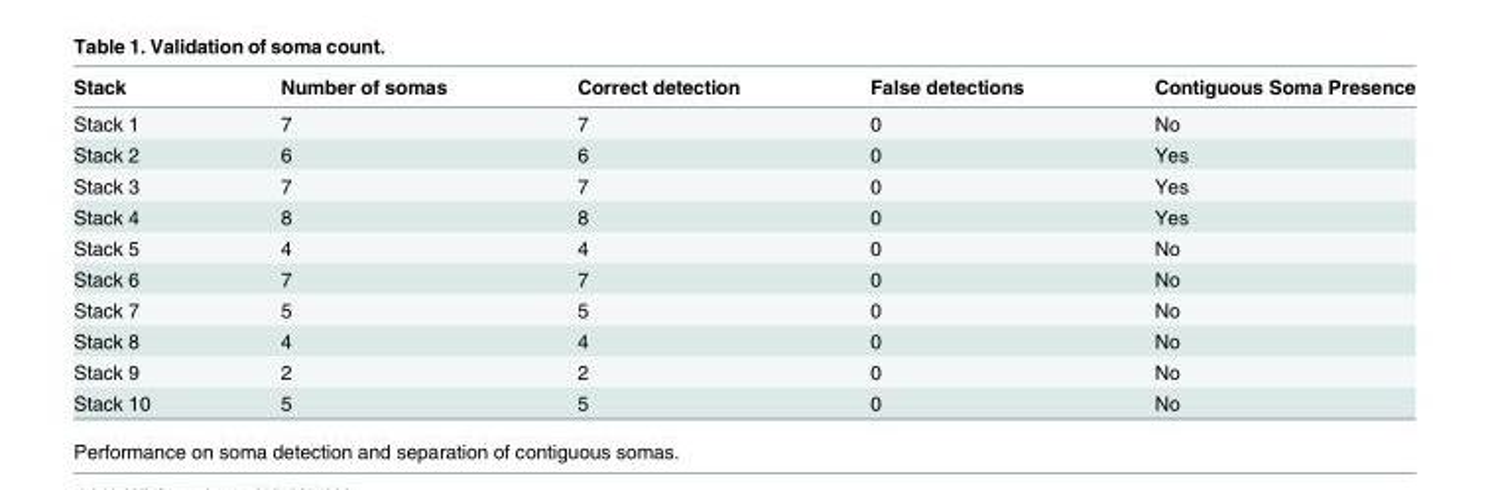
<table><thead><tr><td>Stack</td><td>Number of somas</td><td>Correct detection</td><td>False detections</td><td>Contiguous Soma Presence</td></tr></thead><tbody><tr><td>Stack 1</td><td>7</td><td>7</td><td>0</td><td>No</td></tr><tr><td>Stack 2</td><td>6</td><td>6</td><td>0</td><td>Yes</td></tr><tr><td>Stack 3</td><td>7</td><td>7</td><td>0</td><td>Yes</td></tr><tr><td>Stack 4</td><td>8</td><td>8</td><td>0</td><td>Yes</td></tr><tr><td>Stack 5</td><td>4</td><td>4</td><td>0</td><td>No</td></tr><tr><td>Stack 6</td><td>7</td><td>7</td><td>0</td><td>No</td></tr><tr><td>Stack 7</td><td>5</td><td>5</td><td>0</td><td>No</td></tr><tr><td>Stack 8</td><td>4</td><td>4</td><td>0</td><td>No</td></tr><tr><td>Stack 9</td><td>2</td><td>2</td><td>0</td><td>No</td></tr><tr><td>Stack 10</td><td>5</td><td>5</td><td>0</td><td>No</td></tr></tbody></table>